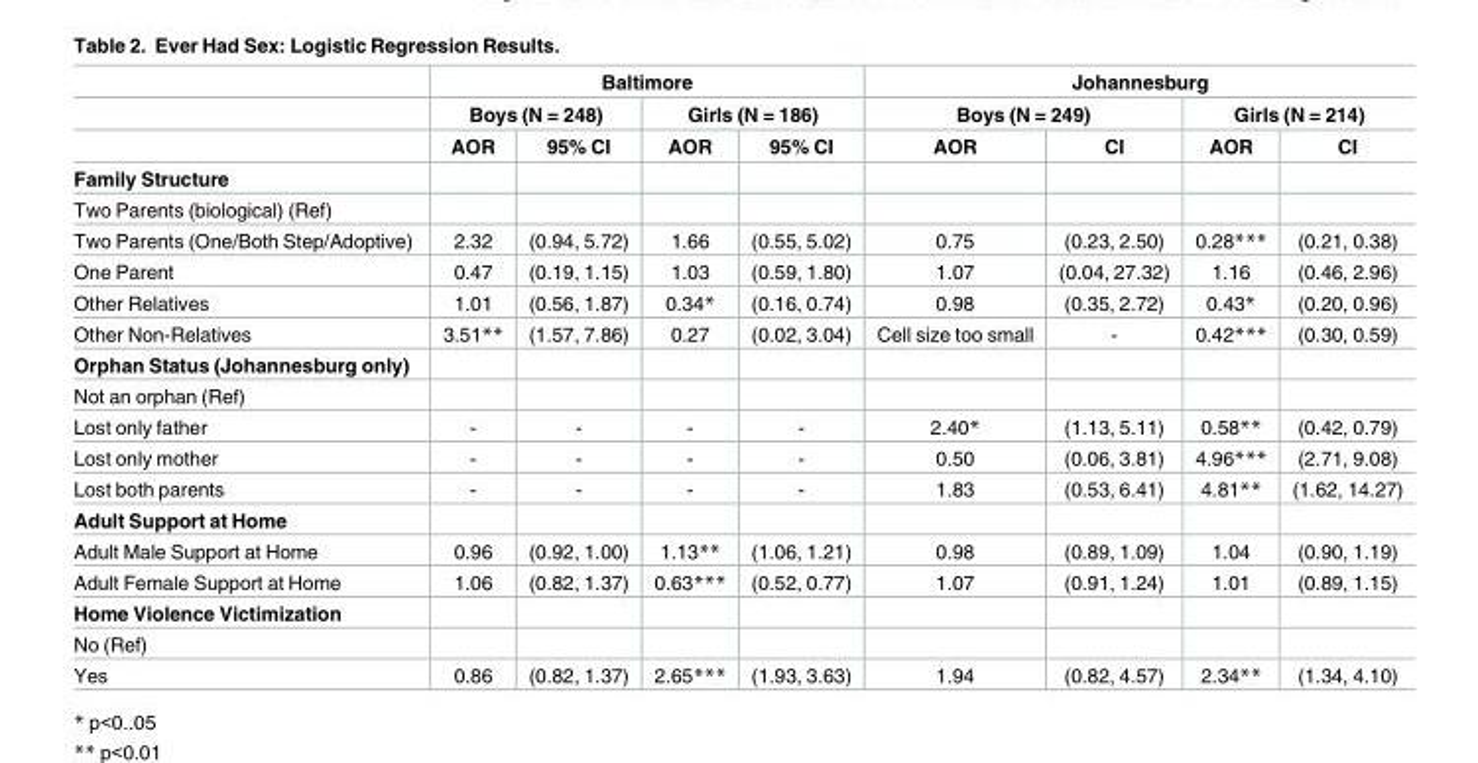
<table><thead><tr><td rowspan="3"></td><td colspan="4">Baltimore</td><td colspan="4">Johannesburg</td></tr><tr><td colspan="2">Boys (N = 248)</td><td colspan="2">Girls (N = 186)</td><td colspan="2">Boys (N = 249)</td><td colspan="2">Girls (N = 214)</td></tr><tr><td>AOR</td><td>95% CI</td><td>AOR</td><td>95% CI</td><td>AOR</td><td>CI</td><td>AOR</td><td>CI</td></tr></thead><tbody><tr><td colspan="9">Family Structure</td></tr><tr><td colspan="9">Two Parents (biological) (Ref)</td></tr><tr><td>Two Parents (One/Both Step/Adoptive)</td><td>2.32</td><td>(0.94, 5.72)</td><td>1.66</td><td>(0.55, 5.02)</td><td>0.75</td><td>(0.23, 2.50)</td><td>0.28***</td><td>(0.21, 0.38)</td></tr><tr><td>One Parent</td><td>0.47</td><td>(0.19, 1.15)</td><td>1.03</td><td>(0.59, 1.80)</td><td>1.07</td><td>(0.04, 27.32)</td><td>1.16</td><td>(0.46, 2.96)</td></tr><tr><td>Other Relatives</td><td>1.01</td><td>(0.56, 1.87)</td><td>0.34*</td><td>(0.16, 0.74)</td><td>0.98</td><td>(0.35, 2.72)</td><td>0.43*</td><td>(0.20, 0.96)</td></tr><tr><td>Other Non-Relatives</td><td>3.51**</td><td>(1.57, 7.86)</td><td>0.27</td><td>(0.02, 3.04)</td><td>Cell size too small</td><td>-</td><td>0.42***</td><td>(0.30, 0.59)</td></tr><tr><td colspan="9">Orphan Status (Johannesburg only)</td></tr><tr><td colspan="9">Not an orphan (Ref)</td></tr><tr><td>Lost only father</td><td>-</td><td>-</td><td>-</td><td>-</td><td>2.40*</td><td>(1.13, 5.11)</td><td>0.58**</td><td>(0.42, 0.79)</td></tr><tr><td>Lost only mother</td><td>-</td><td>-</td><td>-</td><td>-</td><td>0.50</td><td>(0.06, 3.81)</td><td>4.96***</td><td>(2.71, 9.08)</td></tr><tr><td>Lost both parents</td><td>-</td><td>-</td><td>-</td><td>-</td><td>1.83</td><td>(0.53, 6.41)</td><td>4.81**</td><td>(1.62, 14.27)</td></tr><tr><td colspan="9">Adult Support at Home</td></tr><tr><td>Adult Male Support at Home</td><td>0.96</td><td>(0.92, 1.00)</td><td>1.13**</td><td>(1.06, 1.21)</td><td>0.98</td><td>(0.89, 1.09)</td><td>1.04</td><td>(0.90, 1.19)</td></tr><tr><td>Adult Female Support at Home</td><td>1.06</td><td>(0.82, 1.37)</td><td>0.63***</td><td>(0.52, 0.77)</td><td>1.07</td><td>(0.91, 1.24)</td><td>1.01</td><td>(0.89, 1.15)</td></tr><tr><td colspan="9">Home Violence Victimization</td></tr><tr><td colspan="9">No (Ref)</td></tr><tr><td>Yes</td><td>0.86</td><td>(0.82, 1.37)</td><td>2.65***</td><td>(1.93, 3.63)</td><td>1.94</td><td>(0.82, 4.57)</td><td>2.34**</td><td>(1.34, 4.10)</td></tr></tbody></table>